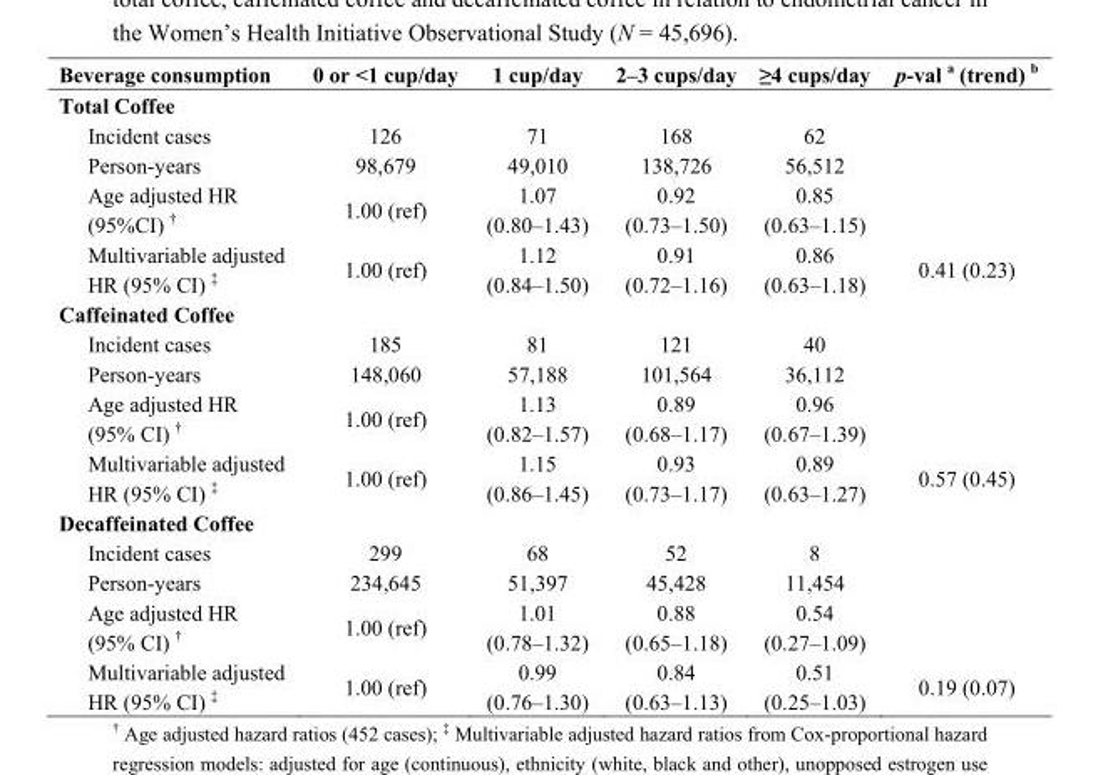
<table><thead><tr><td>Beverage consumption</td><td>0 or &lt;1 cup/day</td><td>1 cup/day</td><td>2–3 cups/day</td><td>≥4 cups/day</td><td>p-val <sup>a</sup> (trend) <sup>b</sup></td></tr></thead><tbody><tr><td colspan="6">Total Coffee</td></tr><tr><td>Incident cases</td><td>126</td><td>71</td><td>168</td><td>62</td><td></td></tr><tr><td>Person-years</td><td>98,679</td><td>49,010</td><td>138,726</td><td>56,512</td><td></td></tr><tr><td>Age adjusted HR (95%CI) <sup>†</sup></td><td>1.00 (ref)</td><td>1.07 (0.80–1.43)</td><td>0.92 (0.73–1.50)</td><td>0.85 (0.63–1.15)</td><td></td></tr><tr><td>Multivariable adjusted HR (95% CI) <sup>‡</sup></td><td>1.00 (ref)</td><td>1.12 (0.84–1.50)</td><td>0.91 (0.72–1.16)</td><td>0.86 (0.63–1.18)</td><td>0.41 (0.23)</td></tr><tr><td colspan="6">Caffeinated Coffee</td></tr><tr><td>Incident cases</td><td>185</td><td>81</td><td>121</td><td>40</td><td></td></tr><tr><td>Person-years</td><td>148,060</td><td>57,188</td><td>101,564</td><td>36,112</td><td></td></tr><tr><td>Age adjusted HR (95% CI) <sup>†</sup></td><td>1.00 (ref)</td><td>1.13 (0.82–1.57)</td><td>0.89 (0.68–1.17)</td><td>0.96 (0.67–1.39)</td><td></td></tr><tr><td>Multivariable adjusted HR (95% CI) <sup>‡</sup></td><td>1.00 (ref)</td><td>1.15 (0.86–1.45)</td><td>0.93 (0.73–1.17)</td><td>0.89 (0.63–1.27)</td><td>0.57 (0.45)</td></tr><tr><td colspan="6">Decaffeinated Coffee</td></tr><tr><td>Incident cases</td><td>299</td><td>68</td><td>52</td><td>8</td><td></td></tr><tr><td>Person-years</td><td>234,645</td><td>51,397</td><td>45,428</td><td>11,454</td><td></td></tr><tr><td>Age adjusted HR (95% CI) <sup>†</sup></td><td>1.00 (ref)</td><td>1.01 (0.78–1.32)</td><td>0.88 (0.65–1.18)</td><td>0.54 (0.27–1.09)</td><td></td></tr><tr><td>Multivariable adjusted HR (95% CI) <sup>‡</sup></td><td>1.00 (ref)</td><td>0.99 (0.76–1.30)</td><td>0.84 (0.63–1.13)</td><td>0.51 (0.25–1.03)</td><td>0.19 (0.07)</td></tr></tbody></table>